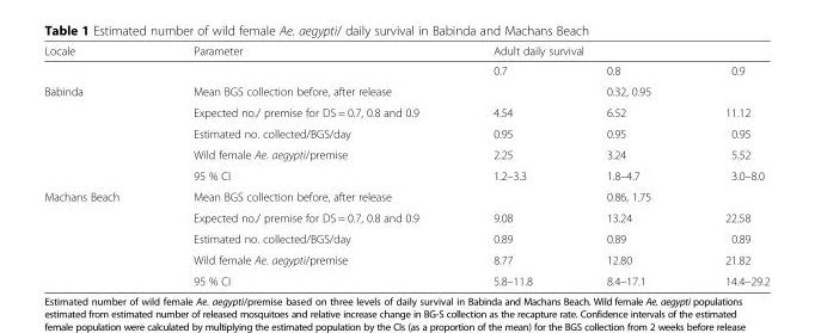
<table><thead><tr><td rowspan="2">Locale</td><td rowspan="2">Parameter</td><td colspan="3">Adult daily survival</td></tr><tr><td>0.7</td><td>0.8</td><td>0.9</td></tr></thead><tbody><tr><td rowspan="5">Babinda</td><td>Mean BGS collection before, after release</td><td></td><td>0.32, 0.95</td><td></td></tr><tr><td>Expected no./ premise for DS = 0.7, 0.8 and 0.9</td><td>4.54</td><td>6.52</td><td>11.12</td></tr><tr><td>Estimated no. collected/BGS/day</td><td>0.95</td><td>0.95</td><td>0.95</td></tr><tr><td>Wild female Ae. aegypti/premise</td><td>2.25</td><td>3.24</td><td>5.52</td></tr><tr><td>95 % CI</td><td>1.2–3.3</td><td>1.8–4.7</td><td>3.0–8.0</td></tr><tr><td rowspan="5">Machans Beach</td><td>Mean BGS collection before, after release</td><td></td><td>0.86, 1.75</td><td></td></tr><tr><td>Expected no./ premise for DS = 0.7, 0.8 and 0.9</td><td>9.08</td><td>13.24</td><td>22.58</td></tr><tr><td>Estimated no. collected/BGS/day</td><td>0.89</td><td>0.89</td><td>0.89</td></tr><tr><td>Wild female Ae. aegypti/premise</td><td>8.77</td><td>12.80</td><td>21.82</td></tr><tr><td>95 % CI</td><td>5.8–11.8</td><td>8.4–17.1</td><td>14.4–29.2</td></tr></tbody></table>